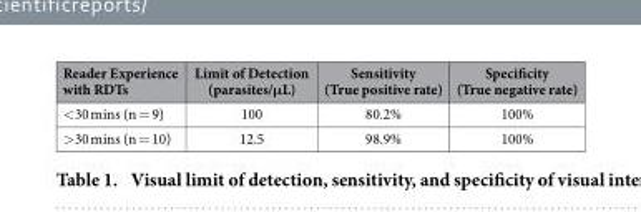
<table><thead><tr><td>Reader Experience with RDTs</td><td>Limit of Detection (parasites/μL)</td><td>Sensitivity (True positive rate)</td><td>Specificity (True negative rate)</td></tr></thead><tbody><tr><td>&lt; 30 mins (n = 9)</td><td>100</td><td>80.2%</td><td>100%</td></tr><tr><td>&gt; 30 mins (n = 10)</td><td>12.5</td><td>98.9%</td><td>100%</td></tr></tbody></table>